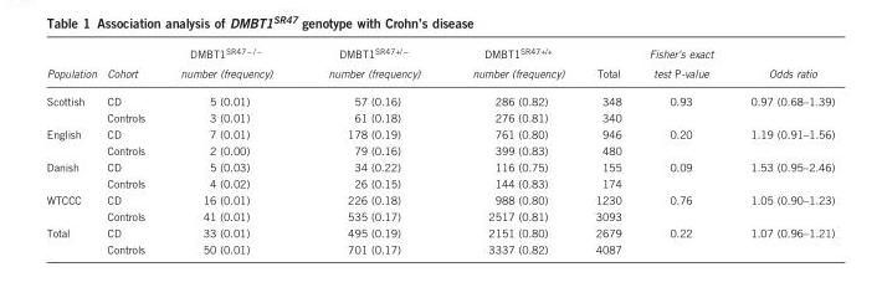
<table><thead><tr><td>Population</td><td>Cohort</td><td>DMBT1<sup>SR47− / −</sup> number (frequency)</td><td>DMBT1<sup>SR47+/ −</sup> number (frequency)</td><td>DMBT1<sup>SR47+/+</sup> number (frequency)</td><td>Total</td><td>Fisher’s exact test P-value</td><td>Odds ratio</td></tr></thead><tbody><tr><td rowspan="2">Scottish</td><td>CD</td><td>5 (0.01)</td><td>57 (0.16)</td><td>286 (0.82)</td><td>348</td><td>0.93</td><td>0.97 (0.68–1.39)</td></tr><tr><td>Controls</td><td>3 (0.01)</td><td>61 (0.18)</td><td>276 (0.81)</td><td>340</td><td></td><td></td></tr><tr><td rowspan="2">English</td><td>CD</td><td>7 (0.01)</td><td>178 (0.19)</td><td>761 (0.80)</td><td>946</td><td>0.20</td><td>1.19 (0.91–1.56)</td></tr><tr><td>Controls</td><td>2 (0.00)</td><td>79 (0.16)</td><td>399 (0.83)</td><td>480</td><td></td><td></td></tr><tr><td rowspan="2">Danish</td><td>CD</td><td>5 (0.03)</td><td>34 (0.22)</td><td>116 (0.75)</td><td>155</td><td>0.09</td><td>1.53 (0.95–2.46)</td></tr><tr><td>Controls</td><td>4 (0.02)</td><td>26 (0.15)</td><td>144 (0.83)</td><td>174</td><td></td><td></td></tr><tr><td rowspan="2">WTCCC</td><td>CD</td><td>16 (0.01)</td><td>226 (0.18)</td><td>988 (0.80)</td><td>1230</td><td>0.76</td><td>1.05 (0.90–1.23)</td></tr><tr><td>Controls</td><td>41 (0.01)</td><td>535 (0.17)</td><td>2517 (0.81)</td><td>3093</td><td></td><td></td></tr><tr><td rowspan="2">Total</td><td>CD</td><td>33 (0.01)</td><td>495 (0.19)</td><td>2151 (0.80)</td><td>2679</td><td>0.22</td><td>1.07 (0.96–1.21)</td></tr><tr><td>Controls</td><td>50 (0.01)</td><td>701 (0.17)</td><td>3337 (0.82)</td><td>4087</td><td></td><td></td></tr></tbody></table>